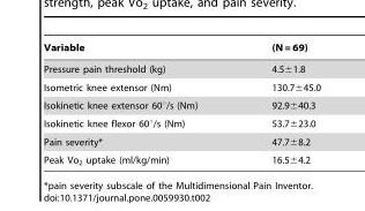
<table><thead><tr><td>Variable</td><td>(N = 69)</td></tr></thead><tbody><tr><td>Pressure pain threshold (kg)</td><td>4.5±1.8</td></tr><tr><td>Isometric knee extensor (Nm)</td><td>130.7±45.0</td></tr><tr><td>Isokinetic knee extensor 60°/s (Nm)</td><td>92.9±40.3</td></tr><tr><td>Isokinetic knee flexor 60°/s (Nm)</td><td>53.7±23.0</td></tr><tr><td>Pain severity*</td><td>47.7±8.2</td></tr><tr><td>Peak Vo<sub>2</sub> uptake (ml/kg/min)</td><td>16.5±4.2</td></tr></tbody></table>